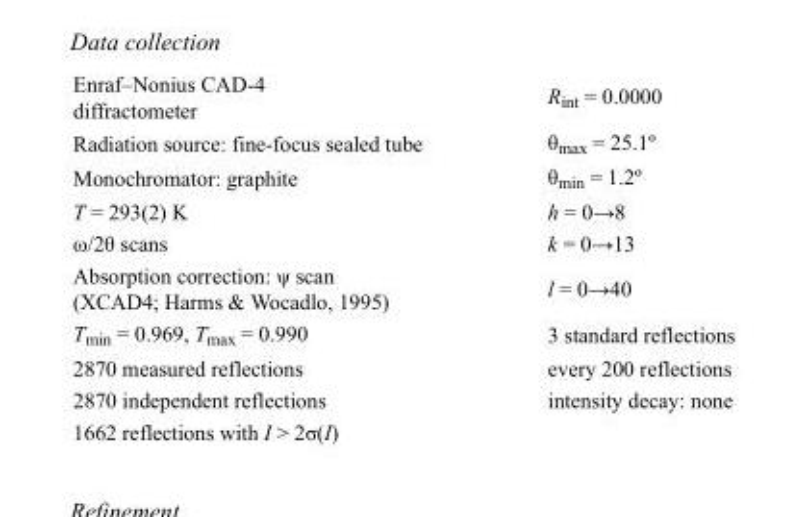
<table><tbody><tr><td>Enraf–Nonius CAD-4 diffractometer</td><td>R<sub>int</sub> = 0.0000</td></tr><tr><td>Radiation source: fine-focus sealed tube</td><td>θ<sub>max</sub> = 25.1º</td></tr><tr><td>Monochromator: graphite</td><td>θ<sub>min</sub> = 1.2º</td></tr><tr><td>T = 293(2) K</td><td>h = 0→8</td></tr><tr><td>ω/2θ scans</td><td>k = 0→13</td></tr><tr><td>Absorption correction: ψ scan (XCAD4; Harms &amp; Wocadlo, 1995)</td><td>l = 0→40</td></tr><tr><td>T<sub>min</sub> = 0.969, T<sub>max</sub> = 0.990</td><td>3 standard reflections</td></tr><tr><td>2870 measured reflections</td><td>every 200 reflections</td></tr><tr><td>2870 independent reflections</td><td>intensity decay: none</td></tr><tr><td>1662 reflections with I &gt; 2σ(I)</td><td></td></tr></tbody></table>